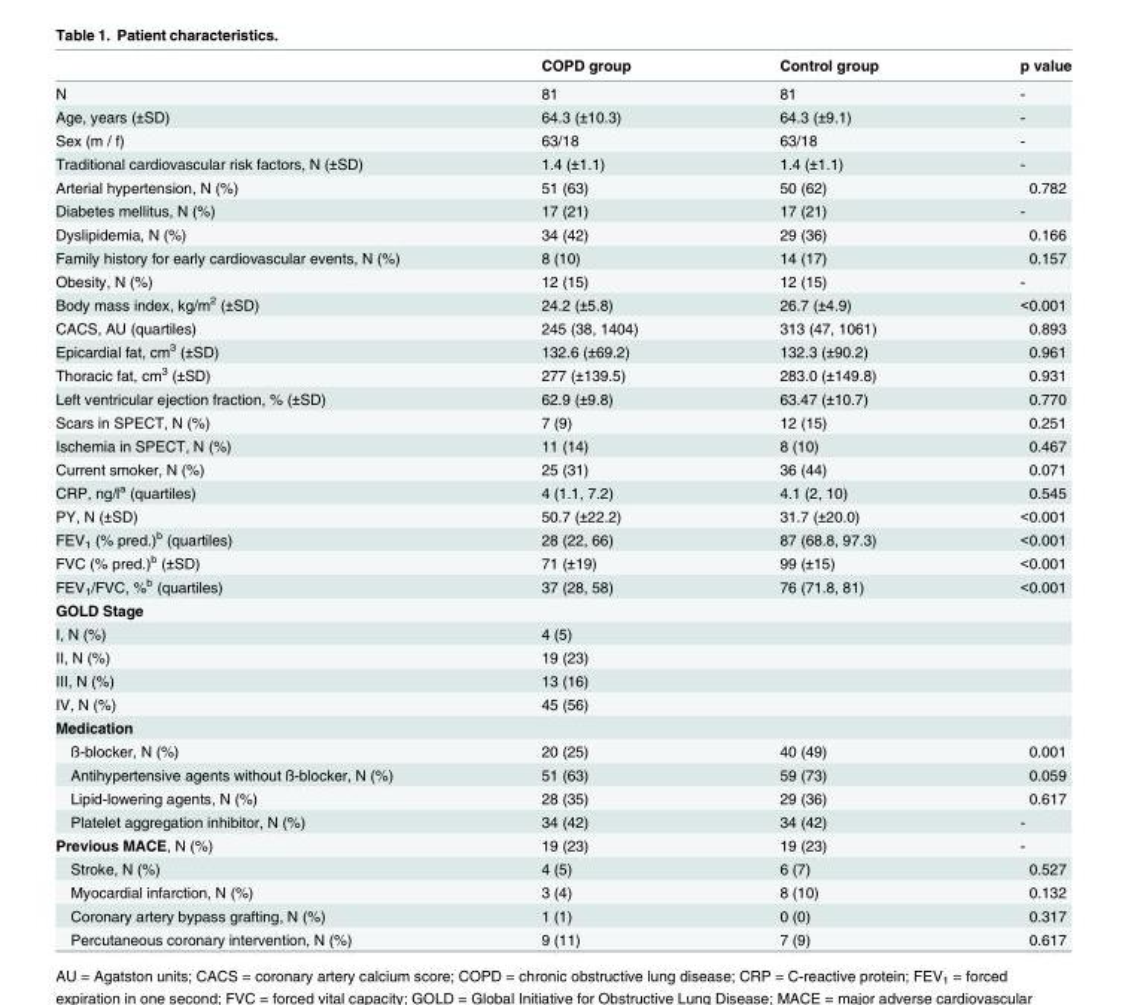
<table><thead><tr><td></td><td>COPD group</td><td>Control group</td><td>p value</td></tr></thead><tbody><tr><td>N</td><td>81</td><td>81</td><td>-</td></tr><tr><td>Age, years (±SD)</td><td>64.3 (±10.3)</td><td>64.3 (±9.1)</td><td>-</td></tr><tr><td>Sex (m / f)</td><td>63/18</td><td>63/18</td><td>-</td></tr><tr><td>Traditional cardiovascular risk factors, N (±SD)</td><td>1.4 (±1.1)</td><td>1.4 (±1.1)</td><td>-</td></tr><tr><td>Arterial hypertension, N (%)</td><td>51 (63)</td><td>50 (62)</td><td>0.782</td></tr><tr><td>Diabetes mellitus, N (%)</td><td>17 (21)</td><td>17 (21)</td><td>-</td></tr><tr><td>Dyslipidemia, N (%)</td><td>34 (42)</td><td>29 (36)</td><td>0.166</td></tr><tr><td>Family history for early cardiovascular events, N (%)</td><td>8 (10)</td><td>14 (17)</td><td>0.157</td></tr><tr><td>Obesity, N (%)</td><td>12 (15)</td><td>12 (15)</td><td>-</td></tr><tr><td>Body mass index, kg/m<sup>2</sup> (±SD)</td><td>24.2 (±5.8)</td><td>26.7 (±4.9)</td><td>&lt;0.001</td></tr><tr><td>CACS, AU (quartiles)</td><td>245 (38, 1404)</td><td>313 (47, 1061)</td><td>0.893</td></tr><tr><td>Epicardial fat, cm<sup>3</sup> (±SD)</td><td>132.6 (±69.2)</td><td>132.3 (±90.2)</td><td>0.961</td></tr><tr><td>Thoracic fat, cm<sup>3</sup> (±SD)</td><td>277 (±139.5)</td><td>283.0 (±149.8)</td><td>0.931</td></tr><tr><td>Left ventricular ejection fraction, % (±SD)</td><td>62.9 (±9.8)</td><td>63.47 (±10.7)</td><td>0.770</td></tr><tr><td>Scars in SPECT, N (%)</td><td>7 (9)</td><td>12 (15)</td><td>0.251</td></tr><tr><td>Ischemia in SPECT, N (%)</td><td>11 (14)</td><td>8 (10)</td><td>0.467</td></tr><tr><td>Current smoker, N (%)</td><td>25 (31)</td><td>36 (44)</td><td>0.071</td></tr><tr><td>CRP, ng/l<sup>a</sup> (quartiles)</td><td>4 (1.1, 7.2)</td><td>4.1 (2, 10)</td><td>0.545</td></tr><tr><td>PY, N (±SD)</td><td>50.7 (±22.2)</td><td>31.7 (±20.0)</td><td>&lt;0.001</td></tr><tr><td>FEV<sub>1</sub> (% pred.)<sup>b</sup> (quartiles)</td><td>28 (22, 66)</td><td>87 (68.8, 97.3)</td><td>&lt;0.001</td></tr><tr><td>FVC (% pred.)<sup>b</sup> (±SD)</td><td>71 (±19)</td><td>99 (±15)</td><td>&lt;0.001</td></tr><tr><td>FEV<sub>1</sub>/FVC, %<sup>b</sup> (quartiles)</td><td>37 (28, 58)</td><td>76 (71.8, 81)</td><td>&lt;0.001</td></tr><tr><td colspan="4">GOLD Stage</td></tr><tr><td>I, N (%)</td><td>4 (5)</td><td></td><td></td></tr><tr><td>II, N (%)</td><td>19 (23)</td><td></td><td></td></tr><tr><td>III, N (%)</td><td>13 (16)</td><td></td><td></td></tr><tr><td>IV, N (%)</td><td>45 (56)</td><td></td><td></td></tr><tr><td colspan="4">Medication</td></tr><tr><td>ß-blocker, N (%)</td><td>20 (25)</td><td>40 (49)</td><td>0.001</td></tr><tr><td>Antihypertensive agents without ß-blocker, N (%)</td><td>51 (63)</td><td>59 (73)</td><td>0.059</td></tr><tr><td>Lipid-lowering agents, N (%)</td><td>28 (35)</td><td>29 (36)</td><td>0.617</td></tr><tr><td>Platelet aggregation inhibitor, N (%)</td><td>34 (42)</td><td>34 (42)</td><td>-</td></tr><tr><td>Previous MACE, N (%)</td><td>19 (23)</td><td>19 (23)</td><td>-</td></tr><tr><td>Stroke, N (%)</td><td>4 (5)</td><td>6 (7)</td><td>0.527</td></tr><tr><td>Myocardial infarction, N (%)</td><td>3 (4)</td><td>8 (10)</td><td>0.132</td></tr><tr><td>Coronary artery bypass grafting, N (%)</td><td>1 (1)</td><td>0 (0)</td><td>0.317</td></tr><tr><td>Percutaneous coronary intervention, N (%)</td><td>9 (11)</td><td>7 (9)</td><td>0.617</td></tr></tbody></table>